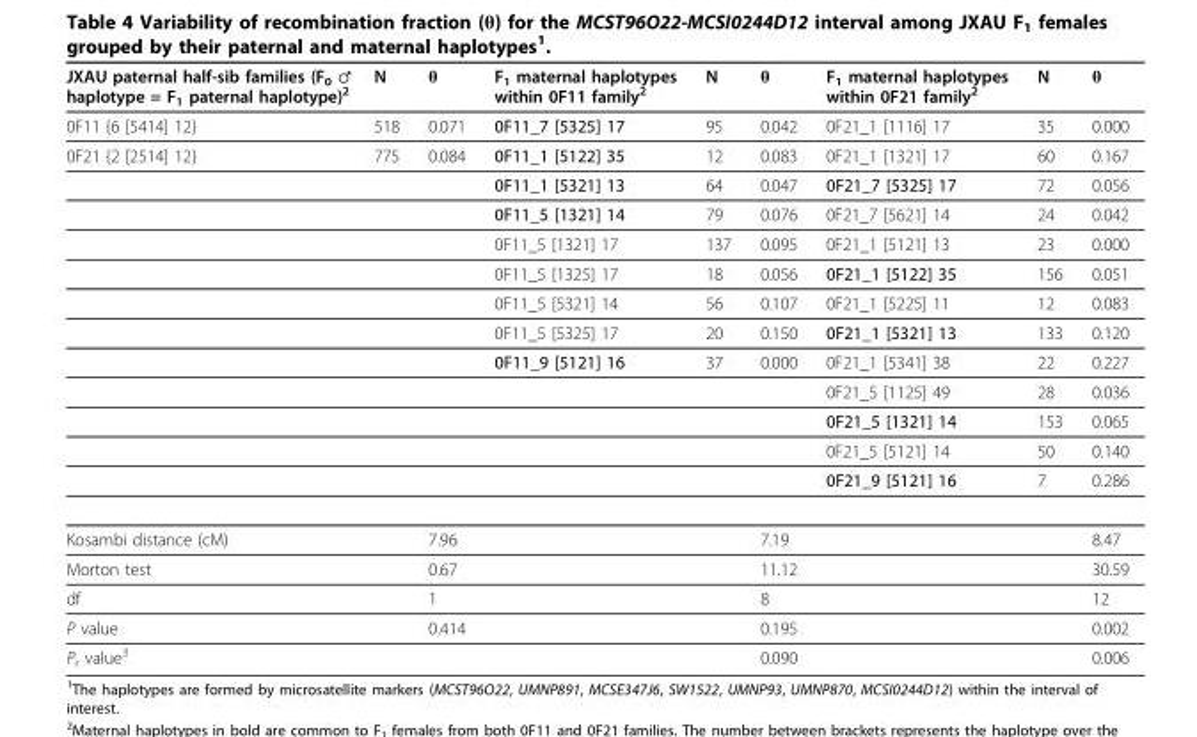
<table><thead><tr><td>JXAU paternal half-sib families (F<sub>0</sub> ♂ haplotype = F<sub>1</sub> paternal haplotype)<sup>2</sup></td><td>N</td><td>θ</td><td>F<sub>1</sub> maternal haplotypes within 0F11 family<sup>2</sup></td><td>N</td><td>θ</td><td>F<sub>1</sub> maternal haplotypes within 0F21 family<sup>2</sup></td><td>N</td><td>θ</td></tr></thead><tbody><tr><td>0F11 {6 [5414] 12}</td><td>518</td><td>0.071</td><td>0F11_7 [5325] 17</td><td>95</td><td>0.042</td><td>0F21_1 [1116] 17</td><td>35</td><td>0.000</td></tr><tr><td rowspan="12">0F21 {2 [2514] 12}</td><td>775</td><td>0.084</td><td>0F11_1 [5122] 35</td><td>12</td><td>0.083</td><td>0F21_1 [1321] 17</td><td>60</td><td>0.167</td></tr><tr><td></td><td></td><td>0F11_1 [5321] 13</td><td>64</td><td>0.047</td><td>0F21_7 [5325] 17</td><td>72</td><td>0.056</td></tr><tr><td></td><td></td><td>0F11_5 [1321] 14</td><td>79</td><td>0.076</td><td>0F21_7 [5621] 14</td><td>24</td><td>0.042</td></tr><tr><td></td><td></td><td>0F11_5 [1321] 17</td><td>137</td><td>0.095</td><td>0F21_1 [5121] 13</td><td>23</td><td>0.000</td></tr><tr><td></td><td></td><td>0F11_5 [1325] 17</td><td>18</td><td>0.056</td><td>0F21_1 [5122] 35</td><td>156</td><td>0.051</td></tr><tr><td></td><td></td><td>0F11_5 [5321] 14</td><td>56</td><td>0.107</td><td>0F21_1 [5225] 11</td><td>12</td><td>0.083</td></tr><tr><td></td><td></td><td>0F11_5 [5325] 17</td><td>20</td><td>0.150</td><td>0F21_1 [5321] 13</td><td>133</td><td>0.120</td></tr><tr><td></td><td></td><td>0F11_9 [5121] 16</td><td>37</td><td>0.000</td><td>0F21_1 [5341] 38</td><td>22</td><td>0.227</td></tr><tr><td></td><td></td><td></td><td></td><td></td><td>0F21_5 [1125] 49</td><td>28</td><td>0.036</td></tr><tr><td></td><td></td><td></td><td></td><td></td><td>0F21_5 [1321] 14</td><td>153</td><td>0.065</td></tr><tr><td></td><td></td><td></td><td></td><td></td><td>0F21_5 [5121] 14</td><td>50</td><td>0.140</td></tr><tr><td></td><td></td><td></td><td></td><td></td><td>0F21_9 [5121] 16</td><td>7</td><td>0.286</td></tr><tr><td>Kosambi distance (cM)</td><td></td><td>7.96</td><td></td><td></td><td>7.19</td><td></td><td></td><td>8.47</td></tr><tr><td>Morton test</td><td></td><td>0.67</td><td></td><td></td><td>11.12</td><td></td><td></td><td>30.59</td></tr><tr><td>df</td><td></td><td>1</td><td></td><td></td><td>8</td><td></td><td></td><td>12</td></tr><tr><td>P value</td><td></td><td>0.414</td><td></td><td></td><td>0.195</td><td></td><td></td><td>0.002</td></tr><tr><td>Pr value3</td><td></td><td></td><td></td><td></td><td>0.090</td><td></td><td></td><td>0.006</td></tr></tbody></table>